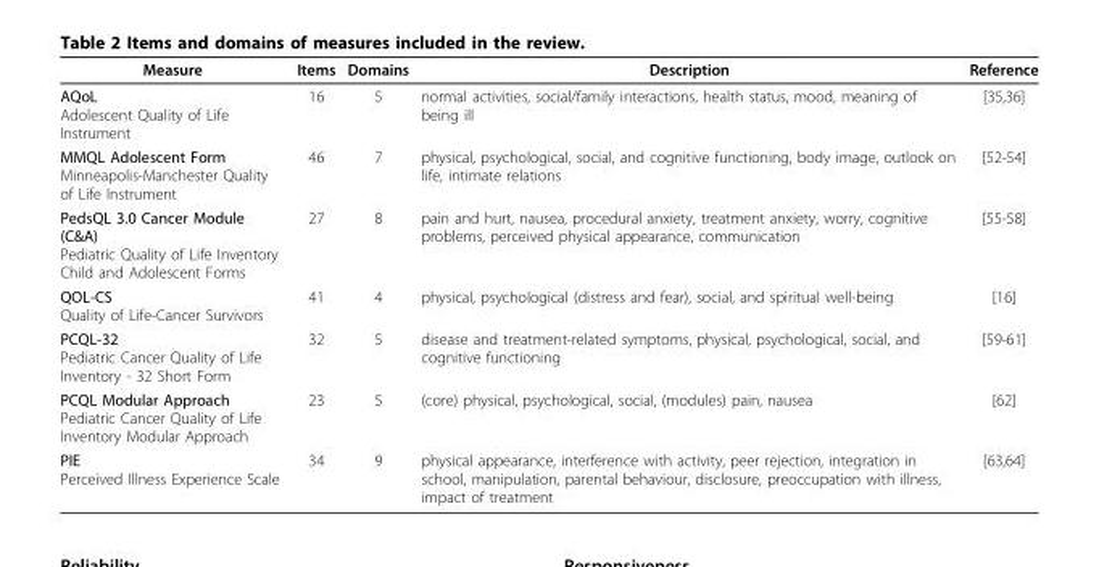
<table><thead><tr><td>Measure</td><td>Items</td><td>Domains</td><td>Description</td><td>Reference</td></tr></thead><tbody><tr><td>AQoL Adolescent Quality of Life Instrument</td><td>16</td><td>5</td><td>normal activities, social/family interactions, health status, mood, meaning of being ill</td><td>[35,36]</td></tr><tr><td>MMQL Adolescent Form Minneapolis-Manchester Quality of Life Instrument</td><td>46</td><td>7</td><td>physical, psychological, social, and cognitive functioning, body image, outlook on life, intimate relations</td><td>[52-54]</td></tr><tr><td>PedsQL 3.0 Cancer Module (C&amp;A) Pediatric Quality of Life Inventory Child and Adolescent Forms</td><td>27</td><td>8</td><td>pain and hurt, nausea, procedural anxiety, treatment anxiety, worry, cognitive problems, perceived physical appearance, communication</td><td>[55-58]</td></tr><tr><td>QOL-CS Quality of Life-Cancer Survivors</td><td>41</td><td>4</td><td>physical, psychological (distress and fear), social, and spiritual well-being</td><td>[16]</td></tr><tr><td>PCQL-32 Pediatric Cancer Quality of Life Inventory - 32 Short Form</td><td>32</td><td>5</td><td>disease and treatment-related symptoms, physical, psychological, social, and cognitive functioning</td><td>[59-61]</td></tr><tr><td>PCQL Modular Approach Pediatric Cancer Quality of Life Inventory Modular Approach</td><td>23</td><td>5</td><td>(core) physical, psychological, social, (modules) pain, nausea</td><td>[62]</td></tr><tr><td>PIE Perceived Illness Experience Scale</td><td>34</td><td>9</td><td>physical appearance, interference with activity, peer rejection, integration in school, manipulation, parental behaviour, disclosure, preoccupation with illness, impact of treatment</td><td>[63,64]</td></tr></tbody></table>